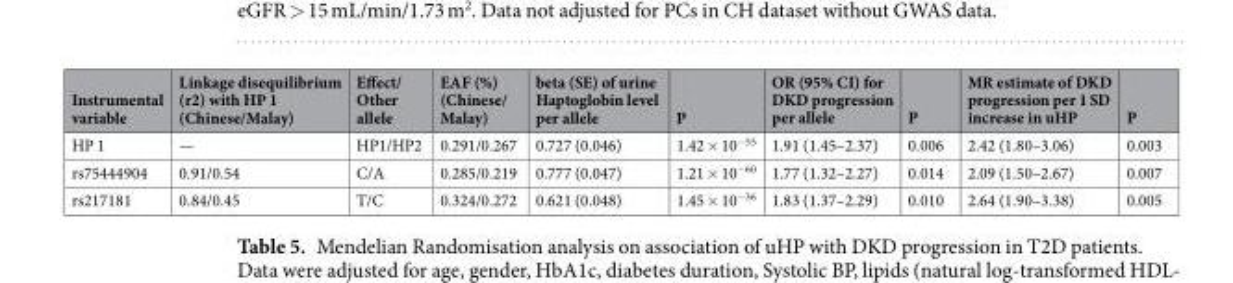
<table><thead><tr><td>Instrumental variable</td><td>Linkage disequilibrium (r2) with HP 1 (Chinese/Malay)</td><td>Effect/ Other allele</td><td>EAF (%) (Chinese/ Malay)</td><td>beta (SE) of urine Haptoglobin level per allele</td><td>P</td><td>OR (95% CI) for DKD progression per allele</td><td>P</td><td>MR estimate of DKD progression per 1 SD increase in uHP</td><td>P</td></tr></thead><tbody><tr><td>HP 1</td><td>—</td><td>HP1/HP2</td><td>0.291/0.267</td><td>0.727 (0.046)</td><td>1.42 × 10<sup>−55</sup></td><td>1.91 (1.45–2.37)</td><td>0.006</td><td>2.42 (1.80–3.06)</td><td>0.003</td></tr><tr><td>rs75444904</td><td>0.91/0.54</td><td>C/A</td><td>0.285/0.219</td><td>0.777 (0.047)</td><td>1.21 × 10<sup>−60</sup></td><td>1.77 (1.32–2.27)</td><td>0.014</td><td>2.09 (1.50–2.67)</td><td>0.007</td></tr><tr><td>rs217181</td><td>0.84/0.45</td><td>T/C</td><td>0.324/0.272</td><td>0.621 (0.048)</td><td>1.45 × 10<sup>−36</sup></td><td>1.83 (1.37–2.29)</td><td>0.010</td><td>2.64 (1.90–3.38)</td><td>0.005</td></tr></tbody></table>